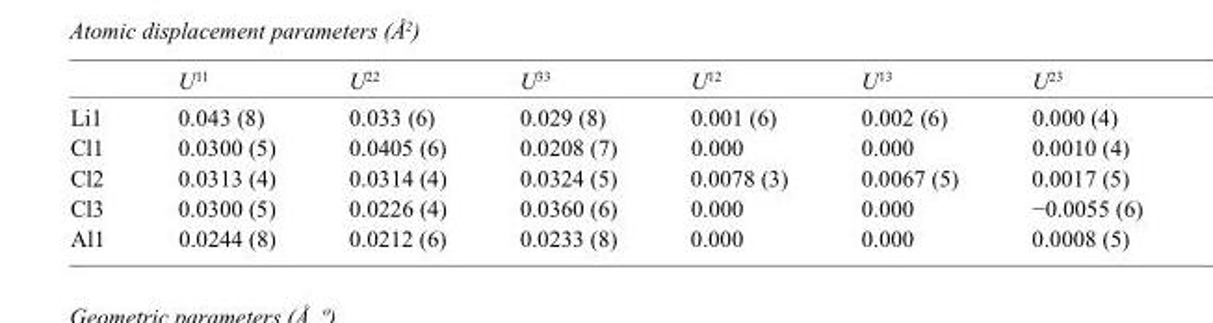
<table><thead><tr><td></td><td>U<sup>11</sup></td><td>U<sup>22</sup></td><td>U<sup>33</sup></td><td>U<sup>12</sup></td><td>U<sup>13</sup></td><td>U<sup>23</sup></td></tr></thead><tbody><tr><td>Li1</td><td>0.043 (8)</td><td>0.033 (6)</td><td>0.029 (8)</td><td>0.001 (6)</td><td>0.002 (6)</td><td>0.000 (4)</td></tr><tr><td>Cl1</td><td>0.0300 (5)</td><td>0.0405 (6)</td><td>0.0208 (7)</td><td>0.000</td><td>0.000</td><td>0.0010 (4)</td></tr><tr><td>Cl2</td><td>0.0313 (4)</td><td>0.0314 (4)</td><td>0.0324 (5)</td><td>0.0078 (3)</td><td>0.0067 (5)</td><td>0.0017 (5)</td></tr><tr><td>Cl3</td><td>0.0300 (5)</td><td>0.0226 (4)</td><td>0.0360 (6)</td><td>0.000</td><td>0.000</td><td>−0.0055 (6)</td></tr><tr><td>Al1</td><td>0.0244 (8)</td><td>0.0212 (6)</td><td>0.0233 (8)</td><td>0.000</td><td>0.000</td><td>0.0008 (5)</td></tr></tbody></table>